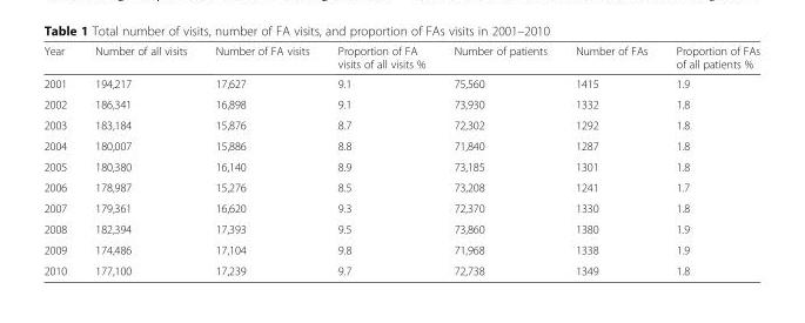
<table><thead><tr><td>Year</td><td>Number of all visits</td><td>Number of FA visits</td><td>Proportion of FA visits of all visits %</td><td>Number of patients</td><td>Number of FAs</td><td>Proportion of FAs of all patients %</td></tr></thead><tbody><tr><td>2001</td><td>194,217</td><td>17,627</td><td>9.1</td><td>75,560</td><td>1415</td><td>1.9</td></tr><tr><td>2002</td><td>186,341</td><td>16,898</td><td>9.1</td><td>73,930</td><td>1332</td><td>1.8</td></tr><tr><td>2003</td><td>183,184</td><td>15,876</td><td>8.7</td><td>72,302</td><td>1292</td><td>1.8</td></tr><tr><td>2004</td><td>180,007</td><td>15,886</td><td>8.8</td><td>71,840</td><td>1287</td><td>1.8</td></tr><tr><td>2005</td><td>180,380</td><td>16,140</td><td>8.9</td><td>73,185</td><td>1301</td><td>1.8</td></tr><tr><td>2006</td><td>178,987</td><td>15,276</td><td>8.5</td><td>73,208</td><td>1241</td><td>1.7</td></tr><tr><td>2007</td><td>179,361</td><td>16,620</td><td>9.3</td><td>72,370</td><td>1330</td><td>1.8</td></tr><tr><td>2008</td><td>182,394</td><td>17,393</td><td>9.5</td><td>73,860</td><td>1380</td><td>1.9</td></tr><tr><td>2009</td><td>174,486</td><td>17,104</td><td>9.8</td><td>71,968</td><td>1338</td><td>1.9</td></tr><tr><td>2010</td><td>177,100</td><td>17,239</td><td>9.7</td><td>72,738</td><td>1349</td><td>1.8</td></tr></tbody></table>